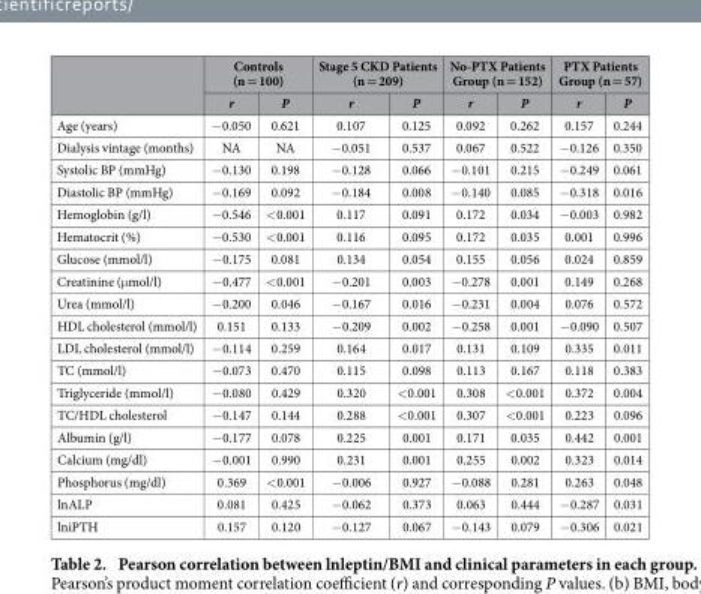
<table><thead><tr><td rowspan="2"></td><td colspan="2">Controls (n = 100)</td><td colspan="2">Stage 5 CKD Patients (n = 209)</td><td colspan="2">No-PTX Patients Group (n = 152)</td><td colspan="2">PTX Patients Group (n = 57)</td></tr><tr><td>r</td><td>P</td><td>r</td><td>P</td><td>r</td><td>P</td><td>r</td><td>P</td></tr></thead><tbody><tr><td>Age (years)</td><td>−0.050</td><td>0.621</td><td>0.107</td><td>0.125</td><td>0.092</td><td>0.262</td><td>0.157</td><td>0.244</td></tr><tr><td>Dialysis vintage (months)</td><td>NA</td><td>NA</td><td>−0.051</td><td>0.537</td><td>0.067</td><td>0.522</td><td>−0.126</td><td>0.350</td></tr><tr><td>Systolic BP (mmHg)</td><td>−0.130</td><td>0.198</td><td>−0.128</td><td>0.066</td><td>−0.101</td><td>0.215</td><td>−0.249</td><td>0.061</td></tr><tr><td>Diastolic BP (mmHg)</td><td>−0.169</td><td>0.092</td><td>−0.184</td><td>0.008</td><td>−0.140</td><td>0.085</td><td>−0.318</td><td>0.016</td></tr><tr><td>Hemoglobin (g/l)</td><td>−0.546</td><td>&lt;0.001</td><td>0.117</td><td>0.091</td><td>0.172</td><td>0.034</td><td>−0.003</td><td>0.982</td></tr><tr><td>Hematocrit (%)</td><td>−0.530</td><td>&lt;0.001</td><td>0.116</td><td>0.095</td><td>0.172</td><td>0.035</td><td>0.001</td><td>0.996</td></tr><tr><td>Glucose (mmol/l)</td><td>−0.175</td><td>0.081</td><td>0.134</td><td>0.054</td><td>0.155</td><td>0.056</td><td>0.024</td><td>0.859</td></tr><tr><td>Creatinine (μmol/l)</td><td>−0.477</td><td>&lt;0.001</td><td>−0.201</td><td>0.003</td><td>−0.278</td><td>0.001</td><td>0.149</td><td>0.268</td></tr><tr><td>Urea (mmol/l)</td><td>−0.200</td><td>0.046</td><td>−0.167</td><td>0.016</td><td>−0.231</td><td>0.004</td><td>0.076</td><td>0.572</td></tr><tr><td>HDL cholesterol (mmol/l)</td><td>0.151</td><td>0.133</td><td>−0.209</td><td>0.002</td><td>−0.258</td><td>0.001</td><td>−0.090</td><td>0.507</td></tr><tr><td>LDL cholesterol (mmol/l)</td><td>−0.114</td><td>0.259</td><td>0.164</td><td>0.017</td><td>0.131</td><td>0.109</td><td>0.335</td><td>0.011</td></tr><tr><td>TC (mmol/l)</td><td>−0.073</td><td>0.470</td><td>0.115</td><td>0.098</td><td>0.113</td><td>0.167</td><td>0.118</td><td>0.383</td></tr><tr><td>Triglyceride (mmol/l)</td><td>−0.080</td><td>0.429</td><td>0.320</td><td>&lt;0.001</td><td>0.308</td><td>&lt;0.001</td><td>0.372</td><td>0.004</td></tr><tr><td>TC/HDL cholesterol</td><td>−0.147</td><td>0.144</td><td>0.288</td><td>&lt;0.001</td><td>0.307</td><td>&lt;0.001</td><td>0.223</td><td>0.096</td></tr><tr><td>Albumin (g/l)</td><td>−0.177</td><td>0.078</td><td>0.225</td><td>0.001</td><td>0.171</td><td>0.035</td><td>0.442</td><td>0.001</td></tr><tr><td>Calcium (mg/dl)</td><td>−0.001</td><td>0.990</td><td>0.231</td><td>0.001</td><td>0.255</td><td>0.002</td><td>0.323</td><td>0.014</td></tr><tr><td>Phosphorus (mg/dl)</td><td>0.369</td><td>&lt;0.001</td><td>−0.006</td><td>0.927</td><td>−0.088</td><td>0.281</td><td>0.263</td><td>0.048</td></tr><tr><td>lnALP</td><td>0.081</td><td>0.425</td><td>−0.062</td><td>0.373</td><td>0.063</td><td>0.444</td><td>−0.287</td><td>0.031</td></tr><tr><td>lniPTH</td><td>0.157</td><td>0.120</td><td>−0.127</td><td>0.067</td><td>−0.143</td><td>0.079</td><td>−0.306</td><td>0.021</td></tr></tbody></table>